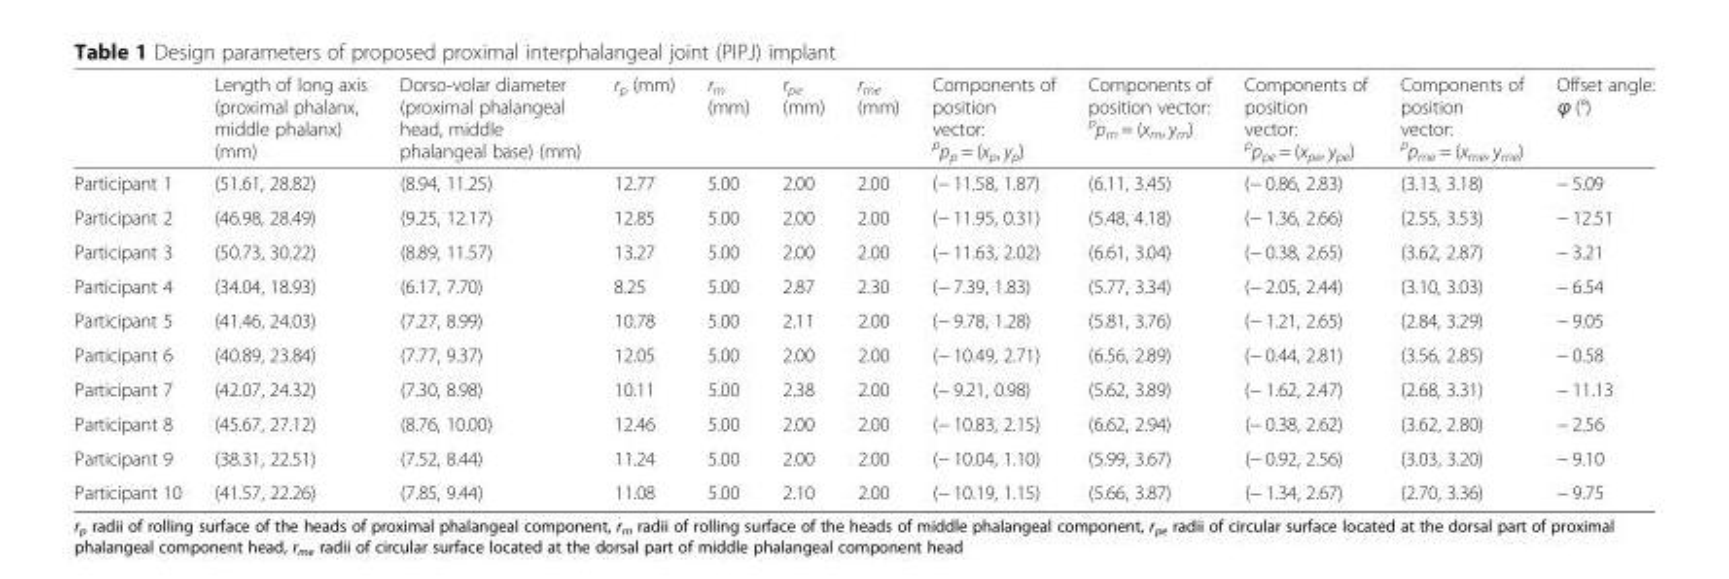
<table><thead><tr><td></td><td>Length of long axis (proximal phalanx, middle phalanx) (mm)</td><td>Dorso-volar diameter (proximal phalangeal head, middle phalangeal base) (mm)</td><td>r<sub>p</sub> (mm)</td><td>r<sub>m</sub> (mm)</td><td>r<sub>pe</sub> (mm)</td><td>r<sub>me</sub> (mm)</td><td>Components of position vector: <sup>p</sup>p<sub>p</sub> = (x<sub>p</sub>, y<sub>p</sub>)</td><td>Components of position vector: <sup>p</sup>p<sub>m</sub> = (x<sub>m</sub>, y<sub>m</sub>)</td><td>Components of position vector: <sup>p</sup>p<sub>pe</sub> = (x<sub>pe</sub>, y<sub>pe</sub>)</td><td>Components of position vector: <sup>p</sup>p<sub>me</sub> = (x<sub>me</sub>, y<sub>me</sub>)</td><td>Offset angle: ϕ (°)</td></tr></thead><tbody><tr><td>Participant 1</td><td>(51.61, 28.82)</td><td>(8.94, 11.25)</td><td>12.77</td><td>5.00</td><td>2.00</td><td>2.00</td><td>(− 11.58, 1.87)</td><td>(6.11, 3.45)</td><td>(− 0.86, 2.83)</td><td>(3.13, 3.18)</td><td>− 5.09</td></tr><tr><td>Participant 2</td><td>(46.98, 28.49)</td><td>(9.25, 12.17)</td><td>12.85</td><td>5.00</td><td>2.00</td><td>2.00</td><td>(− 11.95, 0.31)</td><td>(5.48, 4.18)</td><td>(− 1.36, 2.66)</td><td>(2.55, 3.53)</td><td>− 12.51</td></tr><tr><td>Participant 3</td><td>(50.73, 30.22)</td><td>(8.89, 11.57)</td><td>13.27</td><td>5.00</td><td>2.00</td><td>2.00</td><td>(− 11.63, 2.02)</td><td>(6.61, 3.04)</td><td>(− 0.38, 2.65)</td><td>(3.62, 2.87)</td><td>− 3.21</td></tr><tr><td>Participant 4</td><td>(34.04, 18.93)</td><td>(6.17, 7.70)</td><td>8.25</td><td>5.00</td><td>2.87</td><td>2.30</td><td>(− 7.39, 1.83)</td><td>(5.77, 3.34)</td><td>(− 2.05, 2.44)</td><td>(3.10, 3.03)</td><td>− 6.54</td></tr><tr><td>Participant 5</td><td>(41.46, 24.03)</td><td>(7.27, 8.99)</td><td>10.78</td><td>5.00</td><td>2.11</td><td>2.00</td><td>(− 9.78, 1.28)</td><td>(5.81, 3.76)</td><td>(− 1.21, 2.65)</td><td>(2.84, 3.29)</td><td>− 9.05</td></tr><tr><td>Participant 6</td><td>(40.89, 23.84)</td><td>(7.77, 9.37)</td><td>12.05</td><td>5.00</td><td>2.00</td><td>2.00</td><td>(− 10.49, 2.71)</td><td>(6.56, 2.89)</td><td>(− 0.44, 2.81)</td><td>(3.56, 2.85)</td><td>− 0.58</td></tr><tr><td>Participant 7</td><td>(42.07, 24.32)</td><td>(7.30, 8.98)</td><td>10.11</td><td>5.00</td><td>2.38</td><td>2.00</td><td>(− 9.21, 0.98)</td><td>(5.62, 3.89)</td><td>(− 1.62, 2.47)</td><td>(2.68, 3.31)</td><td>− 11.13</td></tr><tr><td>Participant 8</td><td>(45.67, 27.12)</td><td>(8.76, 10.00)</td><td>12.46</td><td>5.00</td><td>2.00</td><td>2.00</td><td>(− 10.83, 2.15)</td><td>(6.62, 2.94)</td><td>(− 0.38, 2.62)</td><td>(3.62, 2.80)</td><td>− 2.56</td></tr><tr><td>Participant 9</td><td>(38.31, 22.51)</td><td>(7.52, 8.44)</td><td>11.24</td><td>5.00</td><td>2.00</td><td>2.00</td><td>(− 10.04, 1.10)</td><td>(5.99, 3.67)</td><td>(− 0.92, 2.56)</td><td>(3.03, 3.20)</td><td>− 9.10</td></tr><tr><td>Participant 10</td><td>(41.57, 22.26)</td><td>(7.85, 9.44)</td><td>11.08</td><td>5.00</td><td>2.10</td><td>2.00</td><td>(− 10.19, 1.15)</td><td>(5.66, 3.87)</td><td>(− 1.34, 2.67)</td><td>(2.70, 3.36)</td><td>− 9.75</td></tr></tbody></table>